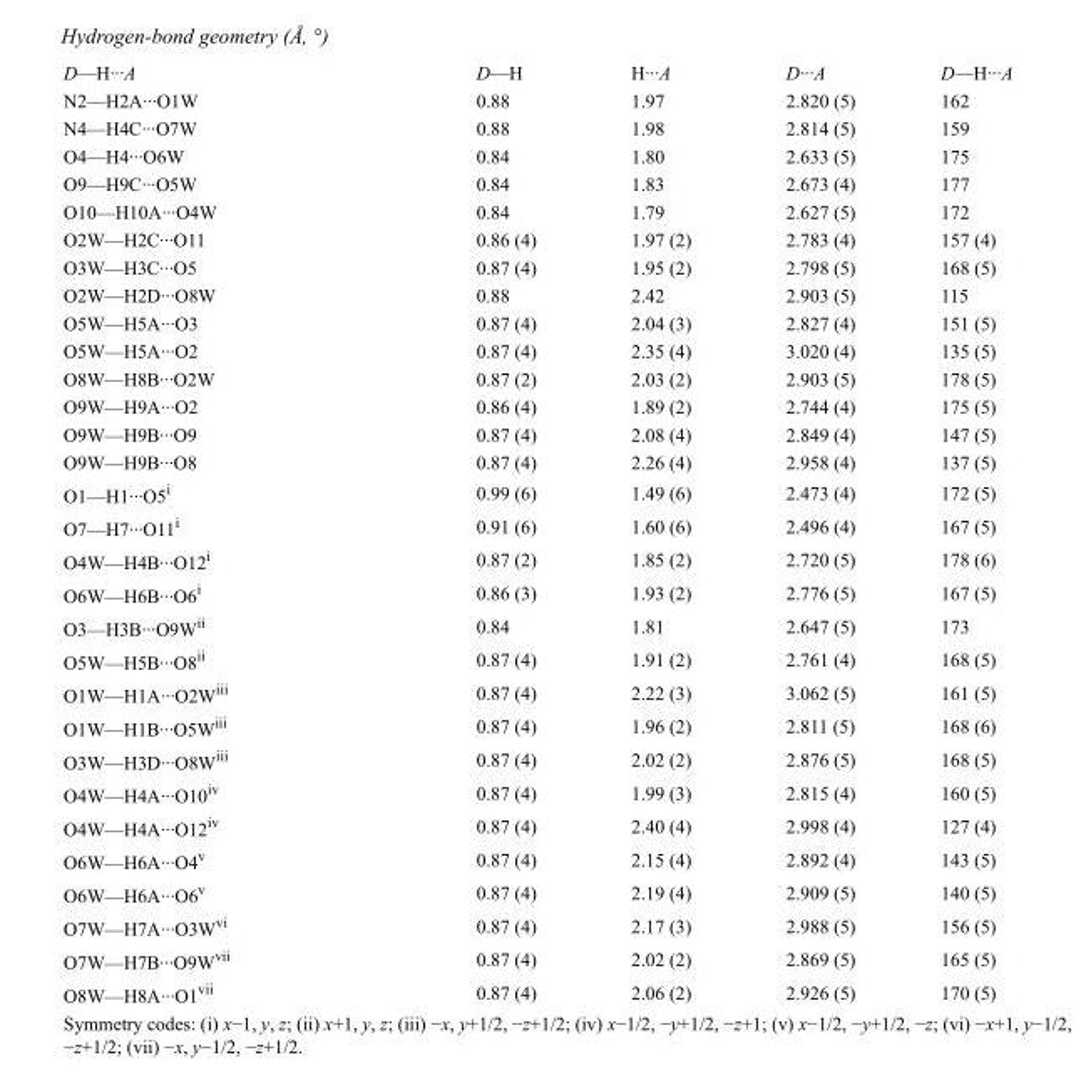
<table><tbody><tr><td>D—H···A</td><td>D—H</td><td>H···A</td><td>D···A</td><td>D—H···A</td></tr><tr><td>N2—H2A···O1W</td><td>0.88</td><td>1.97</td><td>2.820 (5)</td><td>162</td></tr><tr><td>N4—H4C···O7W</td><td>0.88</td><td>1.98</td><td>2.814 (5)</td><td>159</td></tr><tr><td>O4—H4···O6W</td><td>0.84</td><td>1.80</td><td>2.633 (5)</td><td>175</td></tr><tr><td>O9—H9C···O5W</td><td>0.84</td><td>1.83</td><td>2.673 (4)</td><td>177</td></tr><tr><td>O10—H10A···O4W</td><td>0.84</td><td>1.79</td><td>2.627 (5)</td><td>172</td></tr><tr><td>O2W—H2C···O11</td><td>0.86 (4)</td><td>1.97 (2)</td><td>2.783 (4)</td><td>157 (4)</td></tr><tr><td>O3W—H3C···O5</td><td>0.87 (4)</td><td>1.95 (2)</td><td>2.798 (5)</td><td>168 (5)</td></tr><tr><td>O2W—H2D···O8W</td><td>0.88</td><td>2.42</td><td>2.903 (5)</td><td>115</td></tr><tr><td>O5W—H5A···O3</td><td>0.87 (4)</td><td>2.04 (3)</td><td>2.827 (4)</td><td>151 (5)</td></tr><tr><td>O5W—H5A···O2</td><td>0.87 (4)</td><td>2.35 (4)</td><td>3.020 (4)</td><td>135 (5)</td></tr><tr><td>O8W—H8B···O2W</td><td>0.87 (2)</td><td>2.03 (2)</td><td>2.903 (5)</td><td>178 (5)</td></tr><tr><td>O9W—H9A···O2</td><td>0.86 (4)</td><td>1.89 (2)</td><td>2.744 (4)</td><td>175 (5)</td></tr><tr><td>O9W—H9B···O9</td><td>0.87 (4)</td><td>2.08 (4)</td><td>2.849 (4)</td><td>147 (5)</td></tr><tr><td>O9W—H9B···O8</td><td>0.87 (4)</td><td>2.26 (4)</td><td>2.958 (4)</td><td>137 (5)</td></tr><tr><td>O1—H1···O5<sup>i</sup></td><td>0.99 (6)</td><td>1.49 (6)</td><td>2.473 (4)</td><td>172 (5)</td></tr><tr><td>O7—H7···O11<sup>i</sup></td><td>0.91 (6)</td><td>1.60 (6)</td><td>2.496 (4)</td><td>167 (5)</td></tr><tr><td>O4W—H4B···O12<sup>i</sup></td><td>0.87 (2)</td><td>1.85 (2)</td><td>2.720 (5)</td><td>178 (6)</td></tr><tr><td>O6W—H6B···O6<sup>i</sup></td><td>0.86 (3)</td><td>1.93 (2)</td><td>2.776 (5)</td><td>167 (5)</td></tr><tr><td>O3—H3B···O9W<sup>ii</sup></td><td>0.84</td><td>1.81</td><td>2.647 (5)</td><td>173</td></tr><tr><td>O5W—H5B···O8<sup>ii</sup></td><td>0.87 (4)</td><td>1.91 (2)</td><td>2.761 (4)</td><td>168 (5)</td></tr><tr><td>O1W—H1A···O2W<sup>iii</sup></td><td>0.87 (4)</td><td>2.22 (3)</td><td>3.062 (5)</td><td>161 (5)</td></tr><tr><td>O1W—H1B···O5W<sup>iii</sup></td><td>0.87 (4)</td><td>1.96 (2)</td><td>2.811 (5)</td><td>168 (6)</td></tr><tr><td>O3W—H3D···O8W<sup>iii</sup></td><td>0.87 (4)</td><td>2.02 (2)</td><td>2.876 (5)</td><td>168 (5)</td></tr><tr><td>O4W—H4A···O10<sup>iv</sup></td><td>0.87 (4)</td><td>1.99 (3)</td><td>2.815 (4)</td><td>160 (5)</td></tr><tr><td>O4W—H4A···O12<sup>iv</sup></td><td>0.87 (4)</td><td>2.40 (4)</td><td>2.998 (4)</td><td>127 (4)</td></tr><tr><td>O6W—H6A···O4<sup>v</sup></td><td>0.87 (4)</td><td>2.15 (4)</td><td>2.892 (4)</td><td>143 (5)</td></tr><tr><td>O6W—H6A···O6<sup>v</sup></td><td>0.87 (4)</td><td>2.19 (4)</td><td>2.909 (5)</td><td>140 (5)</td></tr><tr><td>O7W—H7A···O3W<sup>vi</sup></td><td>0.87 (4)</td><td>2.17 (3)</td><td>2.988 (5)</td><td>156 (5)</td></tr><tr><td>O7W—H7B···O9W<sup>vii</sup></td><td>0.87 (4)</td><td>2.02 (2)</td><td>2.869 (5)</td><td>165 (5)</td></tr><tr><td>O8W—H8A···O1<sup>vii</sup></td><td>0.87 (4)</td><td>2.06 (2)</td><td>2.926 (5)</td><td>170 (5)</td></tr></tbody></table>